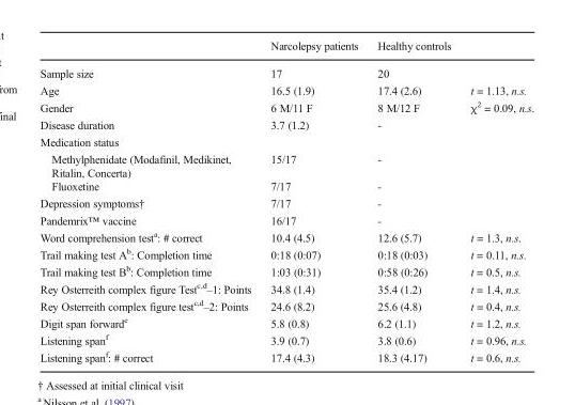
<table><thead><tr><td></td><td>Narcolepsy patients</td><td>Healthy controls</td><td></td></tr></thead><tbody><tr><td>Sample size</td><td>17</td><td>20</td><td></td></tr><tr><td>Age</td><td>16.5 (1.9)</td><td>17.4 (2.6)</td><td>t = 1.13, n.s.</td></tr><tr><td>Gender</td><td>6 M/11 F</td><td>8 M/12 F</td><td>χ<sup>2</sup> = 0.09, n.s.</td></tr><tr><td>Disease duration</td><td>3.7 (1.2)</td><td>-</td><td></td></tr><tr><td colspan="4">Medication status</td></tr><tr><td>Methylphenidate (Modafinil, Medikinet, Ritalin, Concerta)</td><td>15/17</td><td>-</td><td></td></tr><tr><td>Fluoxetine</td><td>7/17</td><td>-</td><td></td></tr><tr><td>Depression symptoms†</td><td>7/17</td><td>-</td><td></td></tr><tr><td>Pandemrix™ vaccine</td><td>16/17</td><td>-</td><td></td></tr><tr><td>Word comprehension test<sup>a</sup>: # correct</td><td>10.4 (4.5)</td><td>12.6 (5.7)</td><td>t = 1.3, n.s.</td></tr><tr><td>Trail making test A<sup>b</sup>: Completion time</td><td>0:18 (0:07)</td><td>0:18 (0:03)</td><td>t = 0.11, n.s.</td></tr><tr><td>Trail making test B<sup>b</sup>: Completion time</td><td>1:03 (0:31)</td><td>0:58 (0:26)</td><td>t = 0.5, n.s.</td></tr><tr><td>Rey Osterreith complex figure Test<sup>c,d</sup>–1: Points</td><td>34.8 (1.4)</td><td>35.4 (1.2)</td><td>t = 1.4, n.s.</td></tr><tr><td>Rey Osterreith complex figure test<sup>c,d</sup>–2: Points</td><td>24.6 (8.2)</td><td>25.6 (4.8)</td><td>t = 0.4, n.s.</td></tr><tr><td>Digit span forward<sup>e</sup></td><td>5.8 (0.8)</td><td>6.2 (1.1)</td><td>t = 1.2, n.s.</td></tr><tr><td>Listening span<sup>f</sup></td><td>3.9 (0.7)</td><td>3.8 (0.6)</td><td>t = 0.96, n.s.</td></tr><tr><td>Listening span<sup>f</sup>: # correct</td><td>17.4 (4.3)</td><td>18.3 (4.17)</td><td>t = 0.6, n.s.</td></tr></tbody></table>